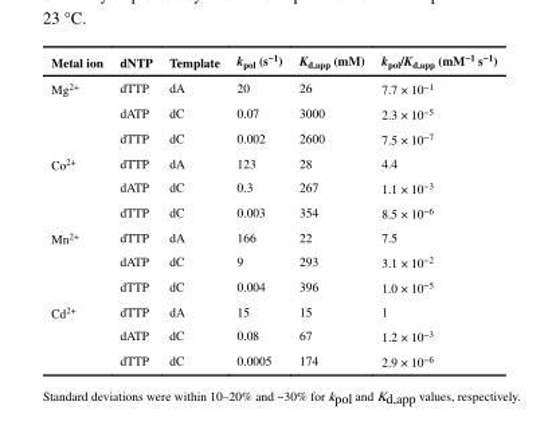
<table><thead><tr><td>Metal ion</td><td>dNTP</td><td>Template</td><td>k<sub>pol</sub> (s<sup>−1</sup>)</td><td>K<sub>d,app</sub> (mM)</td><td>k<sub>pol</sub>/K<sub>d,app</sub> (mM<sup>−1</sup> s<sup>−1</sup>)</td></tr></thead><tbody><tr><td rowspan="3">Mg<sup>2+</sup></td><td>dTTP</td><td>dA</td><td>20</td><td>26</td><td>7.7 × 10<sup>−1</sup></td></tr><tr><td>dATP</td><td>dC</td><td>0.07</td><td>3000</td><td>2.3 × 10<sup>−5</sup></td></tr><tr><td>dTTP</td><td>dC</td><td>0.002</td><td>2600</td><td>7.5 × 10<sup>−7</sup></td></tr><tr><td rowspan="3">Co<sup>2+</sup></td><td>dTTP</td><td>dA</td><td>123</td><td>28</td><td>4.4</td></tr><tr><td>dATP</td><td>dC</td><td>0.3</td><td>267</td><td>1.1 × 10<sup>−3</sup></td></tr><tr><td>dTTP</td><td>dC</td><td>0.003</td><td>354</td><td>8.5 × 10<sup>−6</sup></td></tr><tr><td rowspan="3">Mn<sup>2+</sup></td><td>dTTP</td><td>dA</td><td>166</td><td>22</td><td>7.5</td></tr><tr><td>dATP</td><td>dC</td><td>9</td><td>293</td><td>3.1 × 10<sup>−2</sup></td></tr><tr><td>dTTP</td><td>dC</td><td>0.004</td><td>396</td><td>1.0 × 10<sup>−5</sup></td></tr><tr><td rowspan="3">Cd<sup>2+</sup></td><td>dTTP</td><td>dA</td><td>15</td><td>15</td><td>1</td></tr><tr><td>dATP</td><td>dC</td><td>0.08</td><td>67</td><td>1.2 × 10<sup>−3</sup></td></tr><tr><td>dTTP</td><td>dC</td><td>0.0005</td><td>174</td><td>2.9 × 10<sup>−6</sup></td></tr></tbody></table>